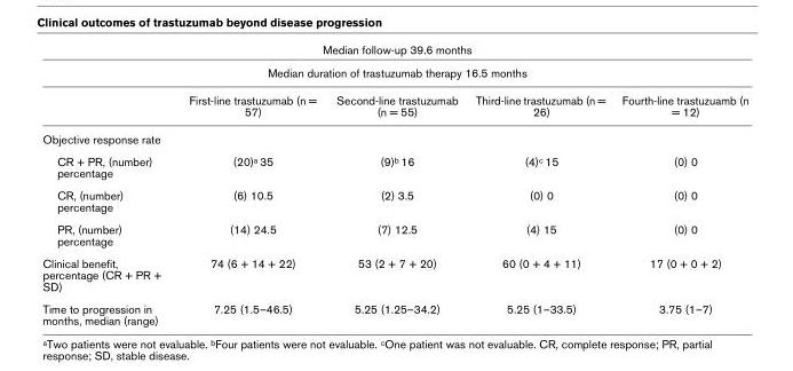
<table><thead><tr><td rowspan="2" colspan="5">Median follow-up 39.6 months Median duration of trastuzumab therapy 16.5 months</td></tr><tr></tr><tr><td></td><td>First-line trastuzumab (n = 57)</td><td>Second-line trastuzumab (n = 55)</td><td>Third-line trastuzumab (n = 26)</td><td>Fourth-line trastuzuamb (n = 12)</td></tr></thead><tbody><tr><td colspan="5">Objective response rate</td></tr><tr><td>CR + PR, (number) percentage</td><td>(20)<sup>a</sup> 35</td><td>(9)<sup>b</sup> 16</td><td>(4)<sup>c</sup> 15</td><td>(0) 0</td></tr><tr><td>CR, (number) percentage</td><td>(6) 10.5</td><td>(2) 3.5</td><td>(0) 0</td><td>(0) 0</td></tr><tr><td>PR, (number) percentage</td><td>(14) 24.5</td><td>(7) 12.5</td><td>(4) 15</td><td>(0) 0</td></tr><tr><td>Clinical benefit, percentage (CR + PR + SD)</td><td>74 (6 + 14 + 22)</td><td>53 (2 + 7 + 20)</td><td>60 (0 + 4 + 11)</td><td>17 (0 + 0 + 2)</td></tr><tr><td>Time to progression in months, median (range)</td><td>7.25 (1.5–46.5)</td><td>5.25 (1.25–34.2)</td><td>5.25 (1–33.5)</td><td>3.75 (1–7)</td></tr></tbody></table>